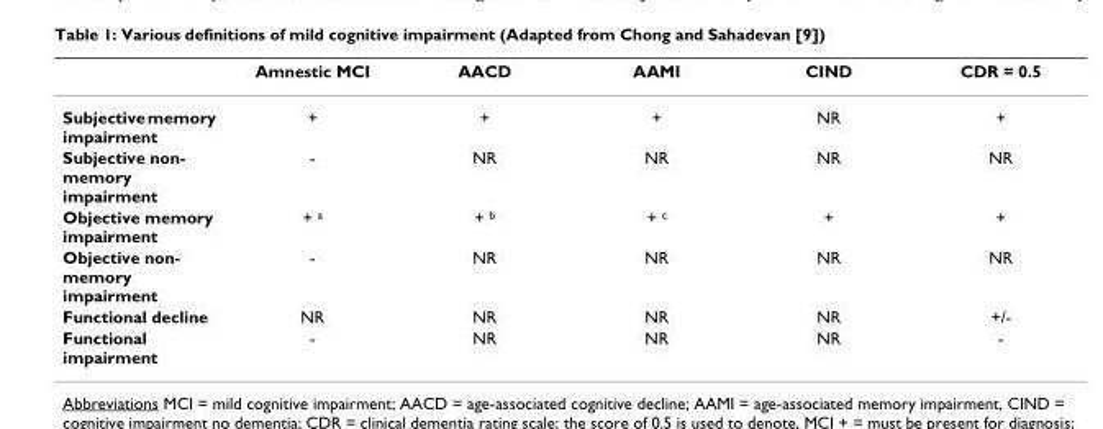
<table><thead><tr><td></td><td>Amnestic MCI</td><td>AACD</td><td>AAMI</td><td>CIND</td><td>CDR = 0.5</td></tr></thead><tbody><tr><td>Subjective memory impairment</td><td>+</td><td>+</td><td>+</td><td>NR</td><td>+</td></tr><tr><td>Subjective non- memory impairment</td><td>-</td><td>NR</td><td>NR</td><td>NR</td><td>NR</td></tr><tr><td>Objective memory impairment</td><td>+ <sup>a</sup></td><td>+ <sup>b</sup></td><td>+ <sup>c</sup></td><td>+</td><td>+</td></tr><tr><td>Objective non- memory impairment</td><td>-</td><td>NR</td><td>NR</td><td>NR</td><td>NR</td></tr><tr><td>Functional decline</td><td>NR</td><td>NR</td><td>NR</td><td>NR</td><td>+/-</td></tr><tr><td>Functional impairment</td><td>-</td><td>NR</td><td>NR</td><td>NR</td><td>-</td></tr></tbody></table>